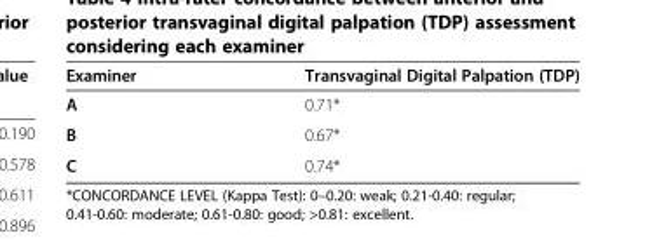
<table><thead><tr><td>Examiner</td><td>Transvaginal Digital Palpation (TDP)</td></tr></thead><tbody><tr><td>A</td><td>0.71*</td></tr><tr><td>B</td><td>0.67*</td></tr><tr><td>C</td><td>0.74*</td></tr></tbody></table>